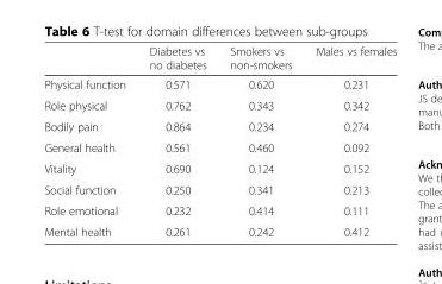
<table><thead><tr><td></td><td>Diabetes vs no diabetes</td><td>Smokers vs non-smokers</td><td>Males vs females</td></tr></thead><tbody><tr><td>Physical function</td><td>0.571</td><td>0.620</td><td>0.231</td></tr><tr><td>Role physical</td><td>0.762</td><td>0.343</td><td>0.342</td></tr><tr><td>Bodily pain</td><td>0.864</td><td>0.234</td><td>0.274</td></tr><tr><td>General health</td><td>0.561</td><td>0.460</td><td>0.092</td></tr><tr><td>Vitality</td><td>0.690</td><td>0.124</td><td>0.152</td></tr><tr><td>Social function</td><td>0.250</td><td>0.341</td><td>0.213</td></tr><tr><td>Role emotional</td><td>0.232</td><td>0.414</td><td>0.111</td></tr><tr><td>Mental health</td><td>0.261</td><td>0.242</td><td>0.412</td></tr></tbody></table>